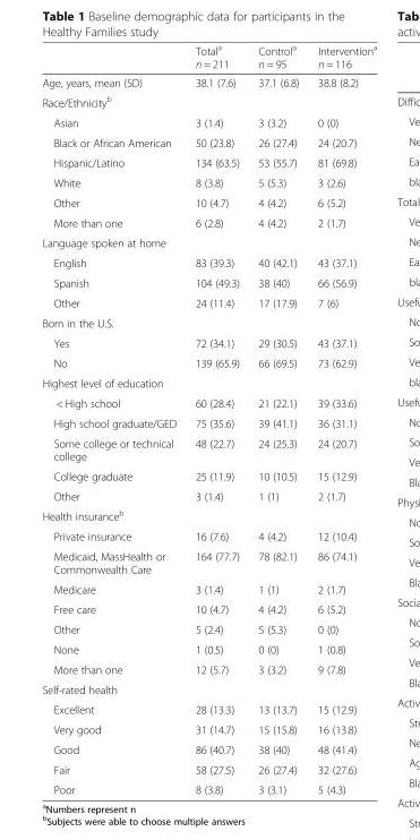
<table><thead><tr><td></td><td>Total<sup>a</sup> n = 211</td><td>Control<sup>a</sup> n = 95</td><td>Intervention<sup>a</sup> n = 116</td></tr></thead><tbody><tr><td>Age, years, mean (SD)</td><td>38.1 (7.6)</td><td>37.1 (6.8)</td><td>38.8 (8.2)</td></tr><tr><td colspan="4">Race/Ethnicity<sup>b</sup></td></tr><tr><td>Asian</td><td>3 (1.4)</td><td>3 (3.2)</td><td>0 (0)</td></tr><tr><td>Black or African American</td><td>50 (23.8)</td><td>26 (27.4)</td><td>24 (20.7)</td></tr><tr><td>Hispanic/Latino</td><td>134 (63.5)</td><td>53 (55.7)</td><td>81 (69.8)</td></tr><tr><td>White</td><td>8 (3.8)</td><td>5 (5.3)</td><td>3 (2.6)</td></tr><tr><td>Other</td><td>10 (4.7)</td><td>4 (4.2)</td><td>6 (5.2)</td></tr><tr><td>More than one</td><td>6 (2.8)</td><td>4 (4.2)</td><td>2 (1.7)</td></tr><tr><td colspan="4">Language spoken at home</td></tr><tr><td>English</td><td>83 (39.3)</td><td>40 (42.1)</td><td>43 (37.1)</td></tr><tr><td>Spanish</td><td>104 (49.3)</td><td>38 (40)</td><td>66 (56.9)</td></tr><tr><td>Other</td><td>24 (11.4)</td><td>17 (17.9)</td><td>7 (6)</td></tr><tr><td colspan="4">Born in the U.S.</td></tr><tr><td>Yes</td><td>72 (34.1)</td><td>29 (30.5)</td><td>43 (37.1)</td></tr><tr><td>No</td><td>139 (65.9)</td><td>66 (69.5)</td><td>73 (62.9)</td></tr><tr><td colspan="4">Highest level of education</td></tr><tr><td>&lt; High school</td><td>60 (28.4)</td><td>21 (22.1)</td><td>39 (33.6)</td></tr><tr><td>High school graduate/GED</td><td>75 (35.6)</td><td>39 (41.1)</td><td>36 (31.1)</td></tr><tr><td>Some college or technical college</td><td>48 (22.7)</td><td>24 (25.3)</td><td>24 (20.7)</td></tr><tr><td>College graduate</td><td>25 (11.9)</td><td>10 (10.5)</td><td>15 (12.9)</td></tr><tr><td>Other</td><td>3 (1.4)</td><td>1 (1)</td><td>2 (1.7)</td></tr><tr><td colspan="4">Health insurance<sup>b</sup></td></tr><tr><td>Private insurance</td><td>16 (7.6)</td><td>4 (4.2)</td><td>12 (10.4)</td></tr><tr><td>Medicaid, MassHealth or Commonwealth Care</td><td>164 (77.7)</td><td>78 (82.1)</td><td>86 (74.1)</td></tr><tr><td>Medicare</td><td>3 (1.4)</td><td>1 (1)</td><td>2 (1.7)</td></tr><tr><td>Free care</td><td>10 (4.7)</td><td>4 (4.2)</td><td>6 (5.2)</td></tr><tr><td>Other</td><td>5 (2.4)</td><td>5 (5.3)</td><td>0 (0)</td></tr><tr><td>None</td><td>1 (0.5)</td><td>0 (0)</td><td>1 (0.8)</td></tr><tr><td>More than one</td><td>12 (5.7)</td><td>3 (3.2)</td><td>9 (7.8)</td></tr><tr><td colspan="4">Self-rated health</td></tr><tr><td>Excellent</td><td>28 (13.3)</td><td>13 (13.7)</td><td>15 (12.9)</td></tr><tr><td>Very good</td><td>31 (14.7)</td><td>15 (15.8)</td><td>16 (13.8)</td></tr><tr><td>Good</td><td>86 (40.7)</td><td>38 (40)</td><td>48 (41.4)</td></tr><tr><td>Fair</td><td>58 (27.5)</td><td>26 (27.4)</td><td>32 (27.6)</td></tr><tr><td>Poor</td><td>8 (3.8)</td><td>3 (3.1)</td><td>5 (4.3)</td></tr></tbody></table>